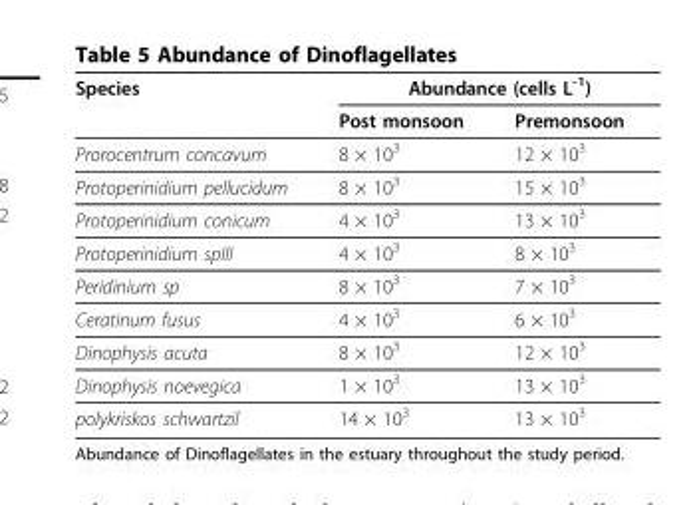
<table><thead><tr><td rowspan="2">Species</td><td colspan="2">Abundance (cells L-1)</td></tr><tr><td>Post monsoon</td><td>Premonsoon</td></tr></thead><tbody><tr><td>Prorocentrum concavum</td><td>8 × 103</td><td>12 × 103</td></tr><tr><td>Protoperinidium pellucidum</td><td>8 × 103</td><td>15 × 103</td></tr><tr><td>Protoperinidium conicum</td><td>4 × 103</td><td>13 × 103</td></tr><tr><td>Protoperinidium spIII</td><td>4 × 103</td><td>8 × 103</td></tr><tr><td>Peridinium sp</td><td>8 × 103</td><td>7 × 103</td></tr><tr><td>Ceratinum fusus</td><td>4 × 103</td><td>6 × 103</td></tr><tr><td>Dinophysis acuta</td><td>8 × 103</td><td>12 × 103</td></tr><tr><td>Dinophysis noevegica</td><td>1 × 103</td><td>13 × 103</td></tr><tr><td>polykriskos schwartzil</td><td>14 × 103</td><td>13 × 103</td></tr></tbody></table>